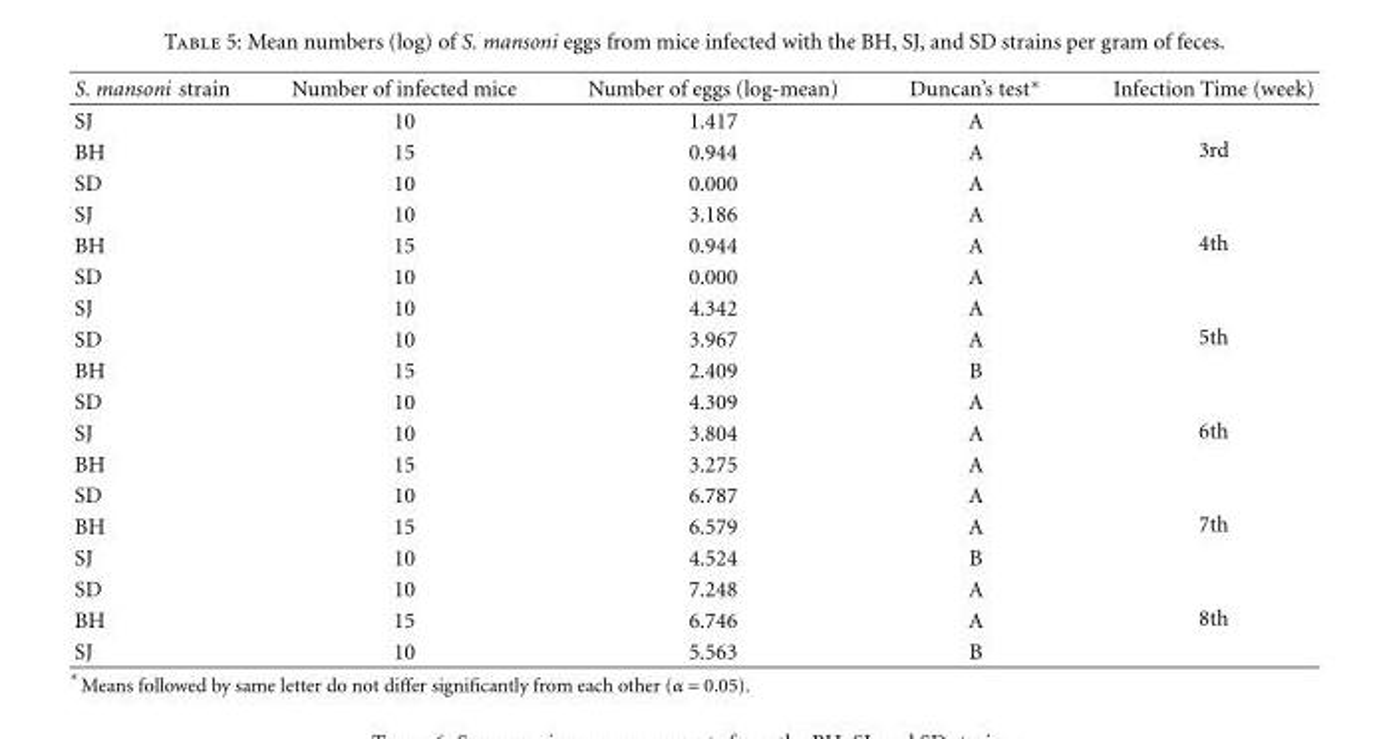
<table><thead><tr><td>S. mansoni strain</td><td>Number of infected mice</td><td>Number of eggs (log-mean)</td><td>Duncan’s test∗</td><td>Infection Time (week)</td></tr></thead><tbody><tr><td>SJ</td><td>10</td><td>1.417</td><td>A</td><td rowspan="3">3rd</td></tr><tr><td>BH</td><td>15</td><td>0.944</td><td>A</td></tr><tr><td>SD</td><td>10</td><td>0.000</td><td>A</td></tr><tr><td>SJ</td><td>10</td><td>3.186</td><td>A</td><td rowspan="3">4th</td></tr><tr><td>BH</td><td>15</td><td>0.944</td><td>A</td></tr><tr><td>SD</td><td>10</td><td>0.000</td><td>A</td></tr><tr><td>SJ</td><td>10</td><td>4.342</td><td>A</td><td rowspan="3">5th</td></tr><tr><td>SD</td><td>10</td><td>3.967</td><td>A</td></tr><tr><td>BH</td><td>15</td><td>2.409</td><td>B</td></tr><tr><td>SD</td><td>10</td><td>4.309</td><td>A</td><td rowspan="3">6th</td></tr><tr><td>SJ</td><td>10</td><td>3.804</td><td>A</td></tr><tr><td>BH</td><td>15</td><td>3.275</td><td>A</td></tr><tr><td>SD</td><td>10</td><td>6.787</td><td>A</td><td rowspan="3">7th</td></tr><tr><td>BH</td><td>15</td><td>6.579</td><td>A</td></tr><tr><td>SJ</td><td>10</td><td>4.524</td><td>B</td></tr><tr><td>SD</td><td>10</td><td>7.248</td><td>A</td><td rowspan="3">8th</td></tr><tr><td>BH</td><td>15</td><td>6.746</td><td>A</td></tr><tr><td>SJ</td><td>10</td><td>5.563</td><td>B</td></tr></tbody></table>